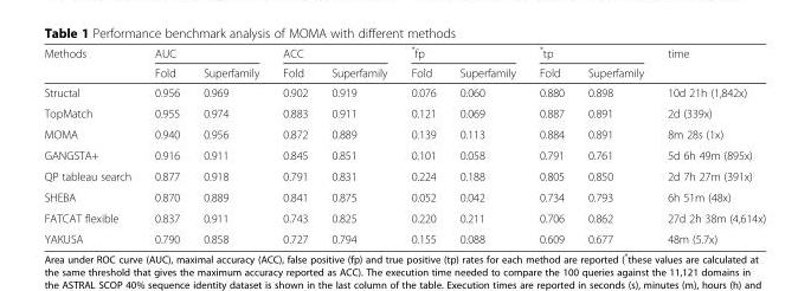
<table><thead><tr><td rowspan="2">Methods</td><td colspan="2">AUC</td><td colspan="2">ACC</td><td colspan="2">*fp</td><td colspan="2">*tp</td><td rowspan="2">time</td></tr><tr><td>Fold</td><td>Superfamily</td><td>Fold</td><td>Superfamily</td><td>Fold</td><td>Superfamily</td><td>Fold</td><td>Superfamily</td></tr></thead><tbody><tr><td>Structal</td><td>0.956</td><td>0.969</td><td>0.902</td><td>0.919</td><td>0.076</td><td>0.060</td><td>0.880</td><td>0.898</td><td>10d 21h (1,842x)</td></tr><tr><td>TopMatch</td><td>0.955</td><td>0.974</td><td>0.883</td><td>0.911</td><td>0.121</td><td>0.069</td><td>0.887</td><td>0.891</td><td>2d (339x)</td></tr><tr><td>MOMA</td><td>0.940</td><td>0.956</td><td>0.872</td><td>0.889</td><td>0.139</td><td>0.113</td><td>0.884</td><td>0.891</td><td>8m 28s (1x)</td></tr><tr><td>GANGSTA+</td><td>0.916</td><td>0.911</td><td>0.845</td><td>0.851</td><td>0.101</td><td>0.058</td><td>0.791</td><td>0.761</td><td>5d 6h 49m (895x)</td></tr><tr><td>QP tableau search</td><td>0.877</td><td>0.918</td><td>0.791</td><td>0.831</td><td>0.224</td><td>0.188</td><td>0.805</td><td>0.850</td><td>2d 7h 27m (391x)</td></tr><tr><td>SHEBA</td><td>0.870</td><td>0.889</td><td>0.841</td><td>0.875</td><td>0.052</td><td>0.042</td><td>0.734</td><td>0.793</td><td>6h 51m (48x)</td></tr><tr><td>FATCAT flexible</td><td>0.837</td><td>0.911</td><td>0.743</td><td>0.825</td><td>0.220</td><td>0.211</td><td>0.706</td><td>0.862</td><td>27d 2h 38m (4,614x)</td></tr><tr><td>YAKUSA</td><td>0.790</td><td>0.858</td><td>0.727</td><td>0.794</td><td>0.155</td><td>0.088</td><td>0.609</td><td>0.677</td><td>48m (5.7x)</td></tr></tbody></table>